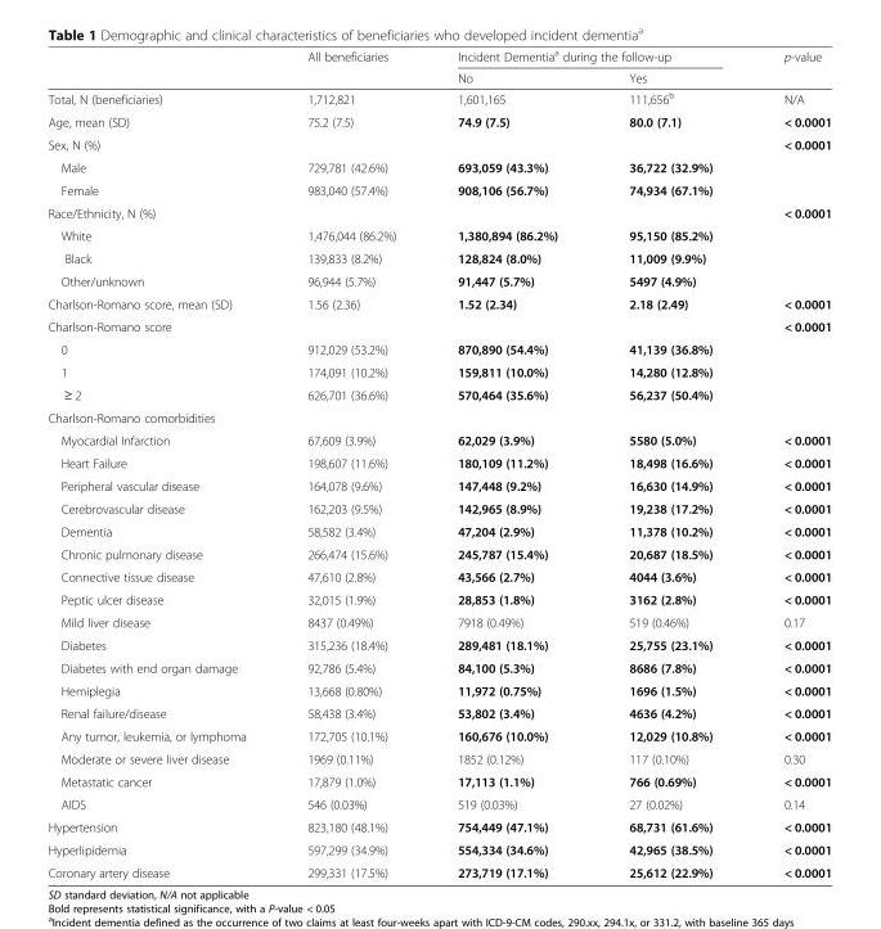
<table><thead><tr><td rowspan="2"></td><td rowspan="2">All beneficiaries</td><td colspan="2">Incident Dementia<sup>a</sup> during the follow-up</td><td rowspan="2">p-value</td></tr><tr><td>No</td><td>Yes</td></tr></thead><tbody><tr><td>Total, N (beneficiaries)</td><td>1,712,821</td><td>1,601,165</td><td>111,656<sup>b</sup></td><td>N/A</td></tr><tr><td>Age, mean (SD)</td><td>75.2 (7.5)</td><td>74.9 (7.5)</td><td>80.0 (7.1)</td><td>&lt; 0.0001</td></tr><tr><td>Sex, N (%)</td><td></td><td></td><td></td><td>&lt; 0.0001</td></tr><tr><td>Male</td><td>729,781 (42.6%)</td><td>693,059 (43.3%)</td><td>36,722 (32.9%)</td><td></td></tr><tr><td>Female</td><td>983,040 (57.4%)</td><td>908,106 (56.7%)</td><td>74,934 (67.1%)</td><td></td></tr><tr><td>Race/Ethnicity, N (%)</td><td></td><td></td><td></td><td>&lt; 0.0001</td></tr><tr><td>White</td><td>1,476,044 (86.2%)</td><td>1,380,894 (86.2%)</td><td>95,150 (85.2%)</td><td></td></tr><tr><td>Black</td><td>139,833 (8.2%)</td><td>128,824 (8.0%)</td><td>11,009 (9.9%)</td><td></td></tr><tr><td>Other/unknown</td><td>96,944 (5.7%)</td><td>91,447 (5.7%)</td><td>5497 (4.9%)</td><td></td></tr><tr><td>Charlson-Romano score, mean (SD)</td><td>1.56 (2.36)</td><td>1.52 (2.34)</td><td>2.18 (2.49)</td><td>&lt; 0.0001</td></tr><tr><td>Charlson-Romano score</td><td></td><td></td><td></td><td>&lt; 0.0001</td></tr><tr><td>0</td><td>912,029 (53.2%)</td><td>870,890 (54.4%)</td><td>41,139 (36.8%)</td><td></td></tr><tr><td>1</td><td>174,091 (10.2%)</td><td>159,811 (10.0%)</td><td>14,280 (12.8%)</td><td></td></tr><tr><td>≥ 2</td><td>626,701 (36.6%)</td><td>570,464 (35.6%)</td><td>56,237 (50.4%)</td><td></td></tr><tr><td colspan="5">Charlson-Romano comorbidities</td></tr><tr><td>Myocardial Infarction</td><td>67,609 (3.9%)</td><td>62,029 (3.9%)</td><td>5580 (5.0%)</td><td>&lt; 0.0001</td></tr><tr><td>Heart Failure</td><td>198,607 (11.6%)</td><td>180,109 (11.2%)</td><td>18,498 (16.6%)</td><td>&lt; 0.0001</td></tr><tr><td>Peripheral vascular disease</td><td>164,078 (9.6%)</td><td>147,448 (9.2%)</td><td>16,630 (14.9%)</td><td>&lt; 0.0001</td></tr><tr><td>Cerebrovascular disease</td><td>162,203 (9.5%)</td><td>142,965 (8.9%)</td><td>19,238 (17.2%)</td><td>&lt; 0.0001</td></tr><tr><td>Dementia</td><td>58,582 (3.4%)</td><td>47,204 (2.9%)</td><td>11,378 (10.2%)</td><td>&lt; 0.0001</td></tr><tr><td>Chronic pulmonary disease</td><td>266,474 (15.6%)</td><td>245,787 (15.4%)</td><td>20,687 (18.5%)</td><td>&lt; 0.0001</td></tr><tr><td>Connective tissue disease</td><td>47,610 (2.8%)</td><td>43,566 (2.7%)</td><td>4044 (3.6%)</td><td>&lt; 0.0001</td></tr><tr><td>Peptic ulcer disease</td><td>32,015 (1.9%)</td><td>28,853 (1.8%)</td><td>3162 (2.8%)</td><td>&lt; 0.0001</td></tr><tr><td>Mild liver disease</td><td>8437 (0.49%)</td><td>7918 (0.49%)</td><td>519 (0.46%)</td><td>0.17</td></tr><tr><td>Diabetes</td><td>315,236 (18.4%)</td><td>289,481 (18.1%)</td><td>25,755 (23.1%)</td><td>&lt; 0.0001</td></tr><tr><td>Diabetes with end organ damage</td><td>92,786 (5.4%)</td><td>84,100 (5.3%)</td><td>8686 (7.8%)</td><td>&lt; 0.0001</td></tr><tr><td>Hemiplegia</td><td>13,668 (0.80%)</td><td>11,972 (0.75%)</td><td>1696 (1.5%)</td><td>&lt; 0.0001</td></tr><tr><td>Renal failure/disease</td><td>58,438 (3.4%)</td><td>53,802 (3.4%)</td><td>4636 (4.2%)</td><td>&lt; 0.0001</td></tr><tr><td>Any tumor, leukemia, or lymphoma</td><td>172,705 (10.1%)</td><td>160,676 (10.0%)</td><td>12,029 (10.8%)</td><td>&lt; 0.0001</td></tr><tr><td>Moderate or severe liver disease</td><td>1969 (0.11%)</td><td>1852 (0.12%)</td><td>117 (0.10%)</td><td>0.30</td></tr><tr><td>Metastatic cancer</td><td>17,879 (1.0%)</td><td>17,113 (1.1%)</td><td>766 (0.69%)</td><td>&lt; 0.0001</td></tr><tr><td>AIDS</td><td>546 (0.03%)</td><td>519 (0.03%)</td><td>27 (0.02%)</td><td>0.14</td></tr><tr><td>Hypertension</td><td>823,180 (48.1%)</td><td>754,449 (47.1%)</td><td>68,731 (61.6%)</td><td>&lt; 0.0001</td></tr><tr><td>Hyperlipidemia</td><td>597,299 (34.9%)</td><td>554,334 (34.6%)</td><td>42,965 (38.5%)</td><td>&lt; 0.0001</td></tr><tr><td>Coronary artery disease</td><td>299,331 (17.5%)</td><td>273,719 (17.1%)</td><td>25,612 (22.9%)</td><td>&lt; 0.0001</td></tr></tbody></table>